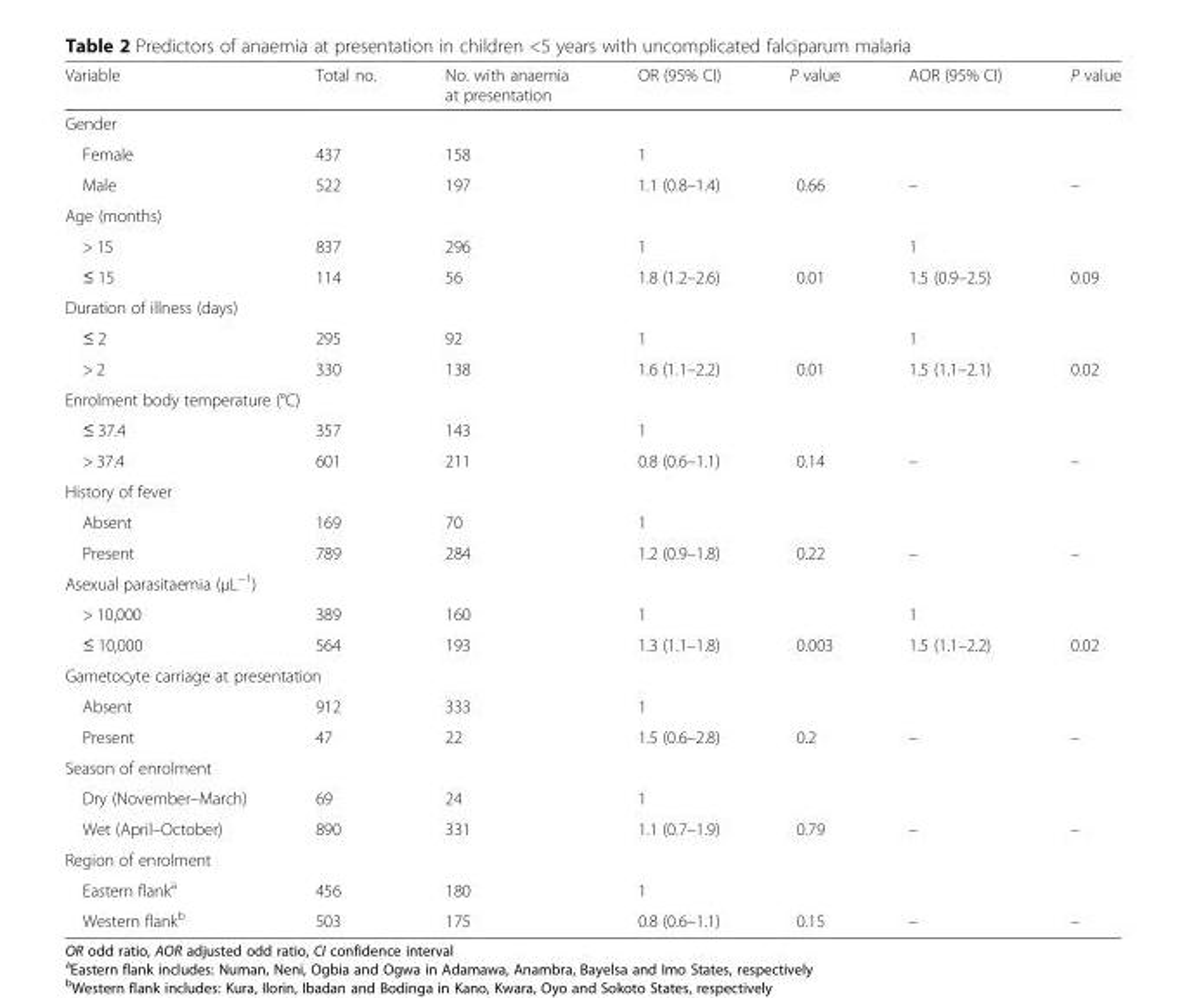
<table><thead><tr><td>Variable</td><td>Total no.</td><td>No. with anaemia at presentation</td><td>OR (95% CI)</td><td>P value</td><td>AOR (95% CI)</td><td>P value</td></tr></thead><tbody><tr><td colspan="7">Gender</td></tr><tr><td>Female</td><td>437</td><td>158</td><td>1</td><td></td><td></td><td></td></tr><tr><td>Male</td><td>522</td><td>197</td><td>1.1 (0.8–1.4)</td><td>0.66</td><td>–</td><td>–</td></tr><tr><td colspan="7">Age (months)</td></tr><tr><td>&gt; 15</td><td>837</td><td>296</td><td>1</td><td></td><td>1</td><td></td></tr><tr><td>≤ 15</td><td>114</td><td>56</td><td>1.8 (1.2–2.6)</td><td>0.01</td><td>1.5 (0.9–2.5)</td><td>0.09</td></tr><tr><td colspan="7">Duration of illness (days)</td></tr><tr><td>≤ 2</td><td>295</td><td>92</td><td>1</td><td></td><td>1</td><td></td></tr><tr><td>&gt; 2</td><td>330</td><td>138</td><td>1.6 (1.1–2.2)</td><td>0.01</td><td>1.5 (1.1–2.1)</td><td>0.02</td></tr><tr><td colspan="7">Enrolment body temperature (°C)</td></tr><tr><td>≤ 37.4</td><td>357</td><td>143</td><td>1</td><td></td><td></td><td></td></tr><tr><td>&gt; 37.4</td><td>601</td><td>211</td><td>0.8 (0.6–1.1)</td><td>0.14</td><td>–</td><td>–</td></tr><tr><td colspan="7">History of fever</td></tr><tr><td>Absent</td><td>169</td><td>70</td><td>1</td><td></td><td></td><td></td></tr><tr><td>Present</td><td>789</td><td>284</td><td>1.2 (0.9–1.8)</td><td>0.22</td><td>–</td><td>–</td></tr><tr><td colspan="7">Asexual parasitaemia (μL<sup>−1</sup>)</td></tr><tr><td>&gt; 10,000</td><td>389</td><td>160</td><td>1</td><td></td><td>1</td><td></td></tr><tr><td>≤ 10,000</td><td>564</td><td>193</td><td>1.3 (1.1–1.8)</td><td>0.003</td><td>1.5 (1.1–2.2)</td><td>0.02</td></tr><tr><td colspan="7">Gametocyte carriage at presentation</td></tr><tr><td>Absent</td><td>912</td><td>333</td><td>1</td><td></td><td></td><td></td></tr><tr><td>Present</td><td>47</td><td>22</td><td>1.5 (0.6–2.8)</td><td>0.2</td><td>–</td><td>–</td></tr><tr><td colspan="7">Season of enrolment</td></tr><tr><td>Dry (November–March)</td><td>69</td><td>24</td><td>1</td><td></td><td></td><td></td></tr><tr><td>Wet (April–October)</td><td>890</td><td>331</td><td>1.1 (0.7–1.9)</td><td>0.79</td><td>–</td><td>–</td></tr><tr><td colspan="7">Region of enrolment</td></tr><tr><td>Eastern flank<sup>a</sup></td><td>456</td><td>180</td><td>1</td><td></td><td></td><td></td></tr><tr><td>Western flank<sup>b</sup></td><td>503</td><td>175</td><td>0.8 (0.6–1.1)</td><td>0.15</td><td>–</td><td>–</td></tr></tbody></table>